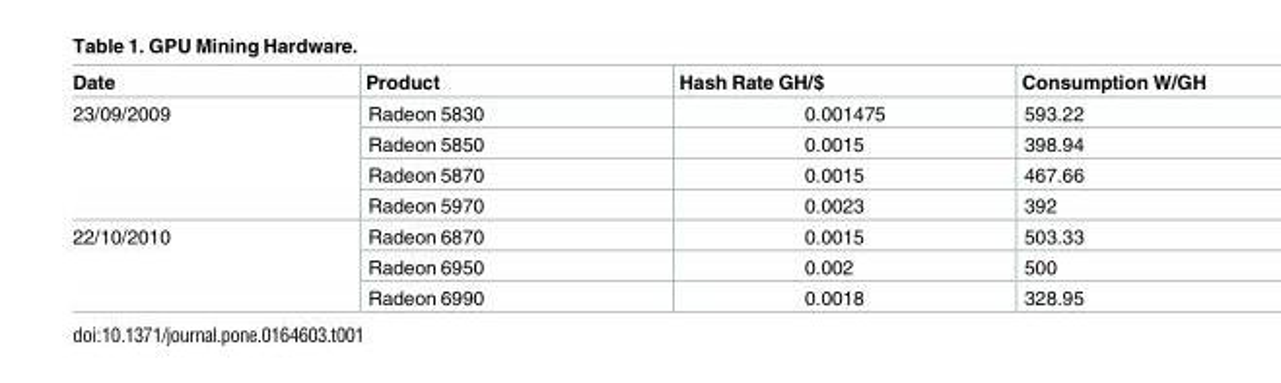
<table><thead><tr><td>Date</td><td>Product</td><td>Hash Rate GH/$</td><td>Consumption W/GH</td></tr></thead><tbody><tr><td rowspan="4">23/09/2009</td><td>Radeon 5830</td><td>0.001475</td><td>593.22</td></tr><tr><td>Radeon 5850</td><td>0.0015</td><td>398.94</td></tr><tr><td>Radeon 5870</td><td>0.0015</td><td>467.66</td></tr><tr><td>Radeon 5970</td><td>0.0023</td><td>392</td></tr><tr><td rowspan="3">22/10/2010</td><td>Radeon 6870</td><td>0.0015</td><td>503.33</td></tr><tr><td>Radeon 6950</td><td>0.002</td><td>500</td></tr><tr><td>Radeon 6990</td><td>0.0018</td><td>328.95</td></tr></tbody></table>